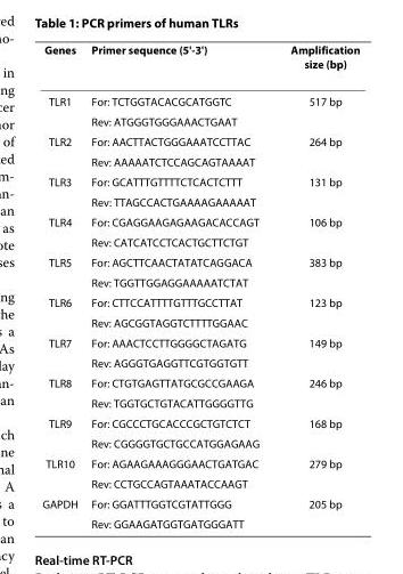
<table><thead><tr><td>Genes</td><td>Primer sequence (5&#x27;-3&#x27;)</td><td>Amplification size (bp)</td></tr></thead><tbody><tr><td rowspan="2">TLR1</td><td>For: TCTGGTACACGCATGGTC</td><td>517 bp</td></tr><tr><td>Rev: ATGGGTGGGAAACTGAAT</td><td></td></tr><tr><td rowspan="2">TLR2</td><td>For: AACTTACTGGGAAATCCTTAC</td><td>264 bp</td></tr><tr><td>Rev: AAAAATCTCCAGCAGTAAAAT</td><td></td></tr><tr><td rowspan="2">TLR3</td><td>For: GCATTTGTTTTCTCACTCTTT</td><td>131 bp</td></tr><tr><td>Rev: TTAGCCACTGAAAAGAAAAAT</td><td></td></tr><tr><td rowspan="2">TLR4</td><td>For: CGAGGAAGAGAAGACACCAGT</td><td>106 bp</td></tr><tr><td>Rev: CATCATCCTCACTGCTTCTGT</td><td></td></tr><tr><td rowspan="2">TLR5</td><td>For: AGCTTCAACTATATCAGGACA</td><td>383 bp</td></tr><tr><td>Rev: TGGTTGGAGGAAAAATCTAT</td><td></td></tr><tr><td rowspan="2">TLR6</td><td>For: CTTCCATTTTGTTTGCCTTAT</td><td>123 bp</td></tr><tr><td>Rev: AGCGGTAGGTCTTTTGGAAC</td><td></td></tr><tr><td rowspan="2">TLR7</td><td>For: AAACTCCTTGGGGCTAGATG</td><td>149 bp</td></tr><tr><td>Rev: AGGGTGAGGTTCGTGGTGTT</td><td></td></tr><tr><td rowspan="2">TLR8</td><td>For: CTGTGAGTTATGCGCCGAAGA</td><td>246 bp</td></tr><tr><td>Rev: TGGTGCTGTACATTGGGGTTG</td><td></td></tr><tr><td rowspan="2">TLR9</td><td>For: CGCCCTGCACCCGCTGTCTCT</td><td>168 bp</td></tr><tr><td>Rev: CGGGGTGCTGCCATGGAGAAG</td><td></td></tr><tr><td rowspan="2">TLR10</td><td>For: AGAAGAAAGGGAACTGATGAC</td><td>279 bp</td></tr><tr><td>Rev: CCTGCCAGTAAATACCAAGT</td><td></td></tr><tr><td rowspan="2">GAPDH</td><td>For: GGATTTGGTCGTATTGGG</td><td>205 bp</td></tr><tr><td>Rev: GGAAGATGGTGATGGGATT</td><td></td></tr></tbody></table>